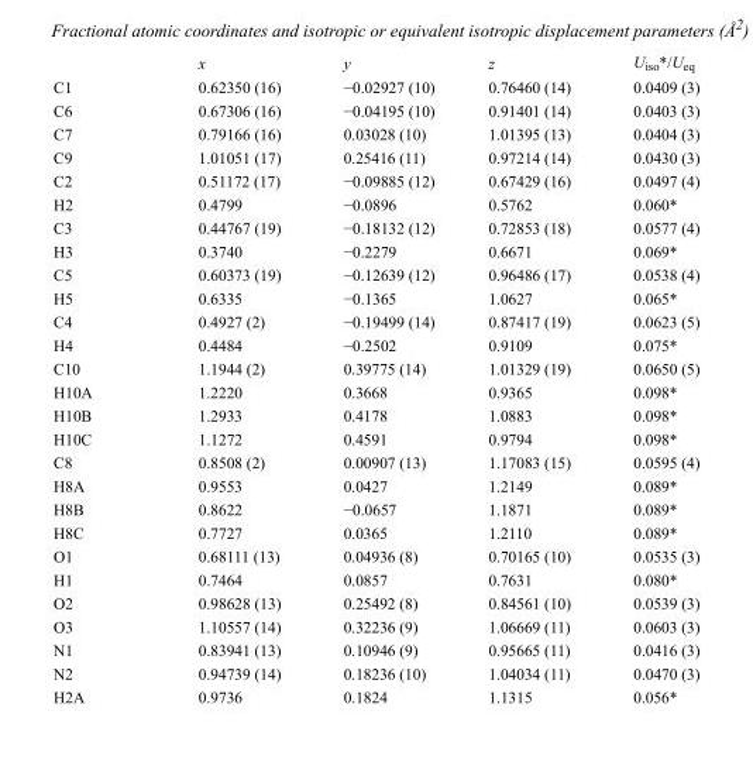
<table><thead><tr><td></td><td>x</td><td>y</td><td>z</td><td>U<sub>iso</sub>*/U<sub>eq</sub></td></tr></thead><tbody><tr><td>C1</td><td>0.62350 (16)</td><td>−0.02927 (10)</td><td>0.76460 (14)</td><td>0.0409 (3)</td></tr><tr><td>C6</td><td>0.67306 (16)</td><td>−0.04195 (10)</td><td>0.91401 (14)</td><td>0.0403 (3)</td></tr><tr><td>C7</td><td>0.79166 (16)</td><td>0.03028 (10)</td><td>1.01395 (13)</td><td>0.0404 (3)</td></tr><tr><td>C9</td><td>1.01051 (17)</td><td>0.25416 (11)</td><td>0.97214 (14)</td><td>0.0430 (3)</td></tr><tr><td>C2</td><td>0.51172 (17)</td><td>−0.09885 (12)</td><td>0.67429 (16)</td><td>0.0497 (4)</td></tr><tr><td>H2</td><td>0.4799</td><td>−0.0896</td><td>0.5762</td><td>0.060*</td></tr><tr><td>C3</td><td>0.44767 (19)</td><td>−0.18132 (12)</td><td>0.72853 (18)</td><td>0.0577 (4)</td></tr><tr><td>H3</td><td>0.3740</td><td>−0.2279</td><td>0.6671</td><td>0.069*</td></tr><tr><td>C5</td><td>0.60373 (19)</td><td>−0.12639 (12)</td><td>0.96486 (17)</td><td>0.0538 (4)</td></tr><tr><td>H5</td><td>0.6335</td><td>−0.1365</td><td>1.0627</td><td>0.065*</td></tr><tr><td>C4</td><td>0.4927 (2)</td><td>−0.19499 (14)</td><td>0.87417 (19)</td><td>0.0623 (5)</td></tr><tr><td>H4</td><td>0.4484</td><td>−0.2502</td><td>0.9109</td><td>0.075*</td></tr><tr><td>C10</td><td>1.1944 (2)</td><td>0.39775 (14)</td><td>1.01329 (19)</td><td>0.0650 (5)</td></tr><tr><td>H10A</td><td>1.2220</td><td>0.3668</td><td>0.9365</td><td>0.098*</td></tr><tr><td>H10B</td><td>1.2933</td><td>0.4178</td><td>1.0883</td><td>0.098*</td></tr><tr><td>H10C</td><td>1.1272</td><td>0.4591</td><td>0.9794</td><td>0.098*</td></tr><tr><td>C8</td><td>0.8508 (2)</td><td>0.00907 (13)</td><td>1.17083 (15)</td><td>0.0595 (4)</td></tr><tr><td>H8A</td><td>0.9553</td><td>0.0427</td><td>1.2149</td><td>0.089*</td></tr><tr><td>H8B</td><td>0.8622</td><td>−0.0657</td><td>1.1871</td><td>0.089*</td></tr><tr><td>H8C</td><td>0.7727</td><td>0.0365</td><td>1.2110</td><td>0.089*</td></tr><tr><td>O1</td><td>0.68111 (13)</td><td>0.04936 (8)</td><td>0.70165 (10)</td><td>0.0535 (3)</td></tr><tr><td>H1</td><td>0.7464</td><td>0.0857</td><td>0.7631</td><td>0.080*</td></tr><tr><td>O2</td><td>0.98628 (13)</td><td>0.25492 (8)</td><td>0.84561 (10)</td><td>0.0539 (3)</td></tr><tr><td>O3</td><td>1.10557 (14)</td><td>0.32236 (9)</td><td>1.06669 (11)</td><td>0.0603 (3)</td></tr><tr><td>N1</td><td>0.83941 (13)</td><td>0.10946 (9)</td><td>0.95665 (11)</td><td>0.0416 (3)</td></tr><tr><td>N2</td><td>0.94739 (14)</td><td>0.18236 (10)</td><td>1.04034 (11)</td><td>0.0470 (3)</td></tr><tr><td>H2A</td><td>0.9736</td><td>0.1824</td><td>1.1315</td><td>0.056*</td></tr></tbody></table>